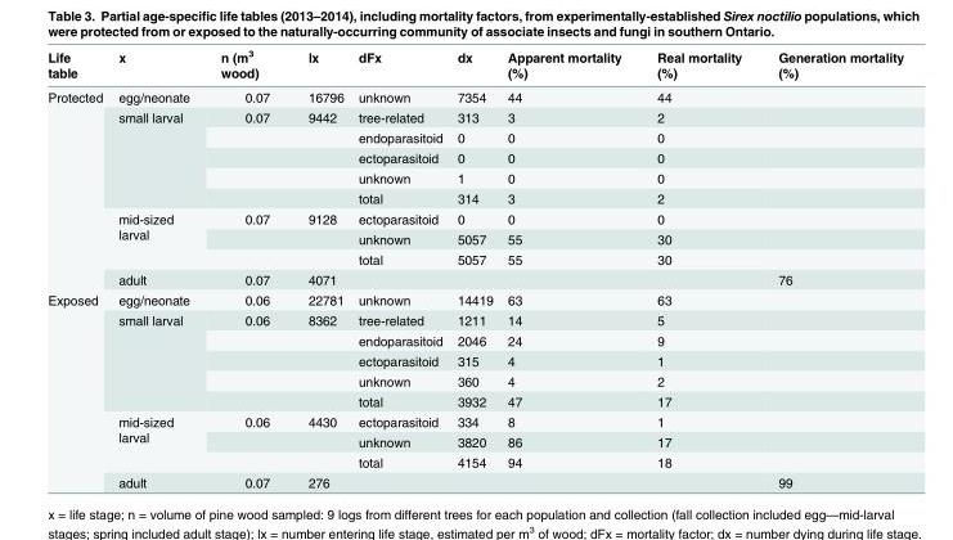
<table><thead><tr><td>Life table</td><td>x</td><td>n (m<sup>3</sup> wood)</td><td>lx</td><td>dFx</td><td>dx</td><td>Apparent mortality (%)</td><td>Real mortality (%)</td><td>Generation mortality (%)</td></tr></thead><tbody><tr><td rowspan="10">Protected</td><td>egg/neonate</td><td>0.07</td><td>16796</td><td>unknown</td><td>7354</td><td>44</td><td>44</td><td></td></tr><tr><td rowspan="5">small larval</td><td>0.07</td><td>9442</td><td>tree-related</td><td>313</td><td>3</td><td>2</td><td></td></tr><tr><td></td><td></td><td>endoparasitoid</td><td>0</td><td>0</td><td>0</td><td></td></tr><tr><td></td><td></td><td>ectoparasitoid</td><td>0</td><td>0</td><td>0</td><td></td></tr><tr><td></td><td></td><td>unknown</td><td>1</td><td>0</td><td>0</td><td></td></tr><tr><td></td><td></td><td>total</td><td>314</td><td>3</td><td>2</td><td></td></tr><tr><td rowspan="3">mid-sized larval</td><td>0.07</td><td>9128</td><td>ectoparasitoid</td><td>0</td><td>0</td><td>0</td><td></td></tr><tr><td></td><td></td><td>unknown</td><td>5057</td><td>55</td><td>30</td><td></td></tr><tr><td></td><td></td><td>total</td><td>5057</td><td>55</td><td>30</td><td></td></tr><tr><td>adult</td><td>0.07</td><td>4071</td><td></td><td></td><td></td><td></td><td>76</td></tr><tr><td rowspan="10">Exposed</td><td>egg/neonate</td><td>0.06</td><td>22781</td><td>unknown</td><td>14419</td><td>63</td><td>63</td><td></td></tr><tr><td rowspan="5">small larval</td><td>0.06</td><td>8362</td><td>tree-related</td><td>1211</td><td>14</td><td>5</td><td></td></tr><tr><td></td><td></td><td>endoparasitoid</td><td>2046</td><td>24</td><td>9</td><td></td></tr><tr><td></td><td></td><td>ectoparasitoid</td><td>315</td><td>4</td><td>1</td><td></td></tr><tr><td></td><td></td><td>unknown</td><td>360</td><td>4</td><td>2</td><td></td></tr><tr><td></td><td></td><td>total</td><td>3932</td><td>47</td><td>17</td><td></td></tr><tr><td rowspan="3">mid-sized larval</td><td>0.06</td><td>4430</td><td>ectoparasitoid</td><td>334</td><td>8</td><td>1</td><td></td></tr><tr><td></td><td></td><td>unknown</td><td>3820</td><td>86</td><td>17</td><td></td></tr><tr><td></td><td></td><td>total</td><td>4154</td><td>94</td><td>18</td><td></td></tr><tr><td>adult</td><td>0.07</td><td>276</td><td></td><td></td><td></td><td></td><td>99</td></tr></tbody></table>